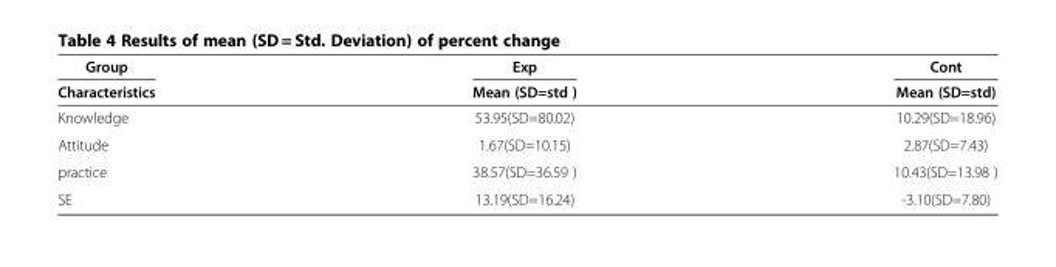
<table><thead><tr><td rowspan="2">Group Characteristics</td><td rowspan="2">Exp Mean (SD=std )</td><td rowspan="2">Cont Mean (SD=std)</td></tr><tr></tr></thead><tbody><tr><td>Knowledge</td><td>53.95(SD=80.02)</td><td>10.29(SD=18.96)</td></tr><tr><td>Attitude</td><td>1.67(SD=10.15)</td><td>2.87(SD=7.43)</td></tr><tr><td>practice</td><td>38.57(SD=36.59 )</td><td>10.43(SD=13.98 )</td></tr><tr><td>SE</td><td>13.19(SD=16.24)</td><td>-3.10(SD=7.80)</td></tr></tbody></table>